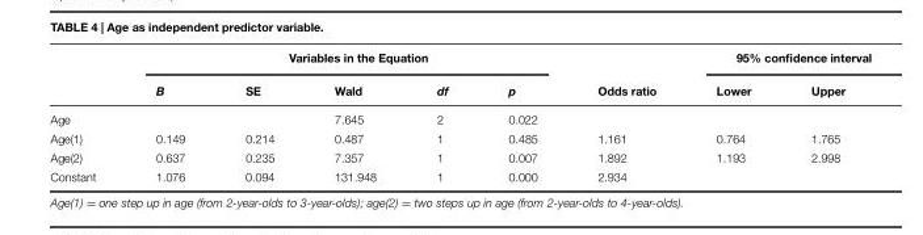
<table><thead><tr><td rowspan="2"></td><td colspan="5">Variables in the Equation</td><td rowspan="2">Odds ratio</td><td colspan="2">95% confidence interval</td></tr><tr><td>B</td><td>SE</td><td>Wald</td><td>df</td><td>p</td><td>Lower</td><td>Upper</td></tr></thead><tbody><tr><td>Age</td><td></td><td></td><td>7.645</td><td>2</td><td>0.022</td><td></td><td></td><td></td></tr><tr><td>Age(1)</td><td>0.149</td><td>0.214</td><td>0.487</td><td>1</td><td>0.485</td><td>1.161</td><td>0.764</td><td>1.765</td></tr><tr><td>Age(2)</td><td>0.637</td><td>0.235</td><td>7.357</td><td>1</td><td>0.007</td><td>1.892</td><td>1.193</td><td>2.998</td></tr><tr><td>Constant</td><td>1.076</td><td>0.094</td><td>131.948</td><td>1</td><td>0.000</td><td>2.934</td><td></td><td></td></tr></tbody></table>